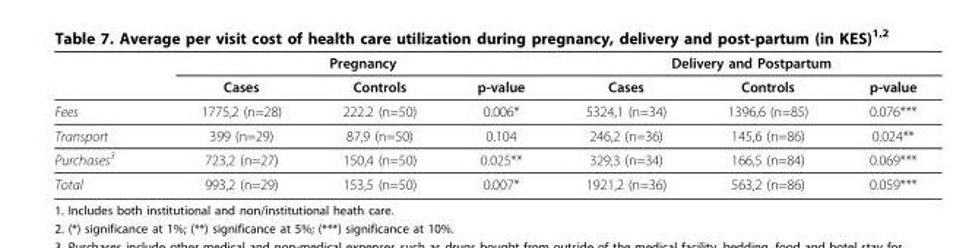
<table><thead><tr><td rowspan="2"></td><td colspan="3">Pregnancy</td><td colspan="3">Delivery and Postpartum</td></tr><tr><td>Cases</td><td>Controls</td><td>p-value</td><td>Cases</td><td>Controls</td><td>p-value</td></tr></thead><tbody><tr><td>Fees</td><td>1775,2 (n=28)</td><td>222.2 (n=50)</td><td>0.006*</td><td>5324,1 (n=34)</td><td>1396,6 (n=85)</td><td>0.076***</td></tr><tr><td>Transport</td><td>399 (n=29)</td><td>87,9 (n=50)</td><td>0.104</td><td>246,2 (n=36)</td><td>145,6 (n=86)</td><td>0.024**</td></tr><tr><td>Purchases<sup>3</sup></td><td>723,2 (n=27)</td><td>150,4 (n=50)</td><td>0.025**</td><td>329,3 (n=34)</td><td>166,5 (n=84)</td><td>0.069***</td></tr><tr><td>Total</td><td>993,2 (n=29)</td><td>153,5 (n=50)</td><td>0.007*</td><td>1921,2 (n=36)</td><td>563,2 (n=86)</td><td>0.059***</td></tr></tbody></table>